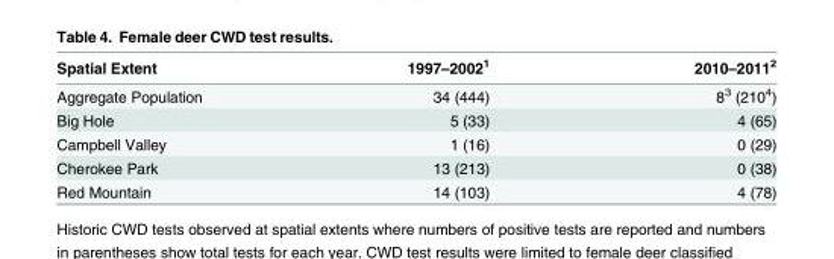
<table><thead><tr><td>Spatial Extent</td><td>1997–2002<sup>1</sup></td><td>2010–2011<sup>2</sup></td></tr></thead><tbody><tr><td>Aggregate Population</td><td>34 (444)</td><td>8<sup>3</sup> (210<sup>4</sup>)</td></tr><tr><td>Big Hole</td><td>5 (33)</td><td>4 (65)</td></tr><tr><td>Campbell Valley</td><td>1 (16)</td><td>0 (29)</td></tr><tr><td>Cherokee Park</td><td>13 (213)</td><td>0 (38)</td></tr><tr><td>Red Mountain</td><td>14 (103)</td><td>4 (78)</td></tr></tbody></table>